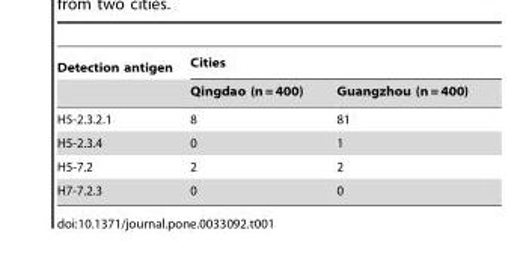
<table><thead><tr><td rowspan="2">Detection antigen</td><td colspan="2">Cities</td></tr><tr><td>Qingdao (n = 400)</td><td>Guangzhou (n = 400)</td></tr></thead><tbody><tr><td>H5-2.3.2.1</td><td>8</td><td>81</td></tr><tr><td>H5-2.3.4</td><td>0</td><td>1</td></tr><tr><td>H5-7.2</td><td>2</td><td>2</td></tr><tr><td>H7-7.2.3</td><td>0</td><td>0</td></tr></tbody></table>